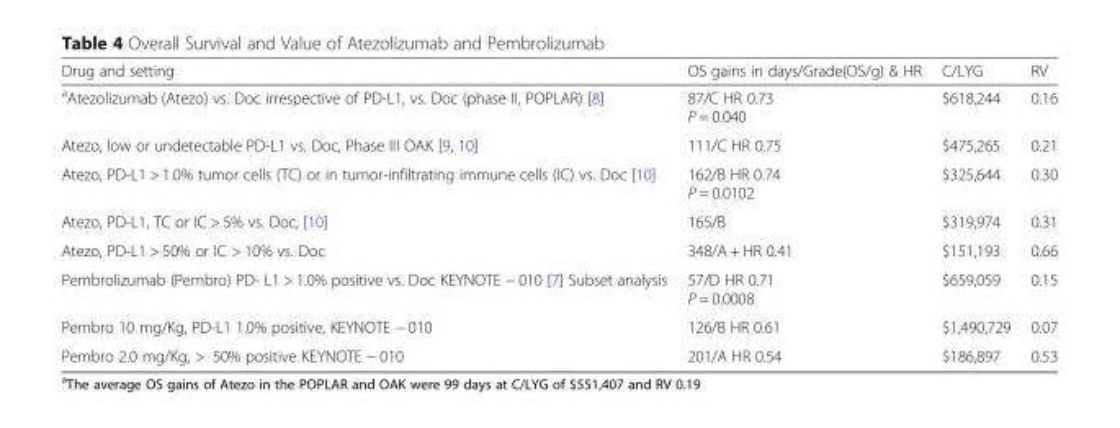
<table><thead><tr><td>Drug and setting</td><td>OS gains in days/Grade(OS/g) &amp; HR</td><td>C/LYG</td><td>RV</td></tr></thead><tbody><tr><td><sup>a</sup>Atezolizumab (Atezo) vs. Doc irrespective of PD-L1, vs. Doc (phase II, POPLAR) [8]</td><td>87/C HR 0.73 P = 0.040</td><td>$618,244</td><td>0.16</td></tr><tr><td>Atezo, low or undetectable PD-L1 vs. Doc, Phase III OAK [9, 10]</td><td>111/C HR 0.75</td><td>$475,265</td><td>0.21</td></tr><tr><td>Atezo, PD-L1 &gt; 1.0% tumor cells (TC) or in tumor-infiltrating immune cells (IC) vs. Doc [10]</td><td>162/B HR 0.74 P = 0.0102</td><td>$325,644</td><td>0.30</td></tr><tr><td>Atezo, PD-L1, TC or IC &gt; 5% vs. Doc, [10]</td><td>165/B</td><td>$319,974</td><td>0.31</td></tr><tr><td>Atezo, PD-L1 &gt; 50% or IC &gt; 10% vs. Doc</td><td>348/A + HR 0.41</td><td>$151,193</td><td>0.66</td></tr><tr><td>Pembrolizumab (Pembro) PD- L1 &gt; 1.0% positive vs. Doc KEYNOTE − 010 [7] Subset analysis</td><td>57/D HR 0.71 P = 0.0008</td><td>$659,059</td><td>0.15</td></tr><tr><td>Pembro 10 mg/Kg, PD-L1 1.0% positive, KEYNOTE − 010</td><td>126/B HR 0.61</td><td>$1,490,729</td><td>0.07</td></tr><tr><td>Pembro 2.0 mg/Kg, &gt; 50% positive KEYNOTE − 010</td><td>201/A HR 0.54</td><td>$186,897</td><td>0.53</td></tr></tbody></table>